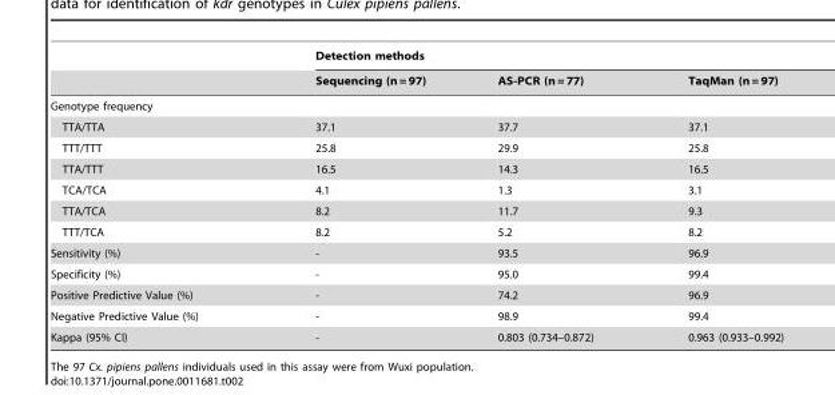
<table><thead><tr><td rowspan="2"></td><td colspan="3">Detection methods</td></tr><tr><td>Sequencing (n = 97)</td><td>AS-PCR (n = 77)</td><td>TaqMan (n = 97)</td></tr></thead><tbody><tr><td colspan="4">Genotype frequency</td></tr><tr><td>TTA/TTA</td><td>37.1</td><td>37.7</td><td>37.1</td></tr><tr><td>TTT/TTT</td><td>25.8</td><td>29.9</td><td>25.8</td></tr><tr><td>TTA/TTT</td><td>16.5</td><td>14.3</td><td>16.5</td></tr><tr><td>TCA/TCA</td><td>4.1</td><td>1.3</td><td>3.1</td></tr><tr><td>TTA/TCA</td><td>8.2</td><td>11.7</td><td>9.3</td></tr><tr><td>TTT/TCA</td><td>8.2</td><td>5.2</td><td>8.2</td></tr><tr><td>Sensitivity (%)</td><td>-</td><td>93.5</td><td>96.9</td></tr><tr><td>Specificity (%)</td><td>-</td><td>95.0</td><td>99.4</td></tr><tr><td>Positive Predictive Value (%)</td><td>-</td><td>74.2</td><td>96.9</td></tr><tr><td>Negative Predictive Value (%)</td><td>-</td><td>98.9</td><td>99.4</td></tr><tr><td>Kappa (95% CI)</td><td>-</td><td>0.803 (0.734–0.872)</td><td>0.963 (0.933–0.992)</td></tr></tbody></table>